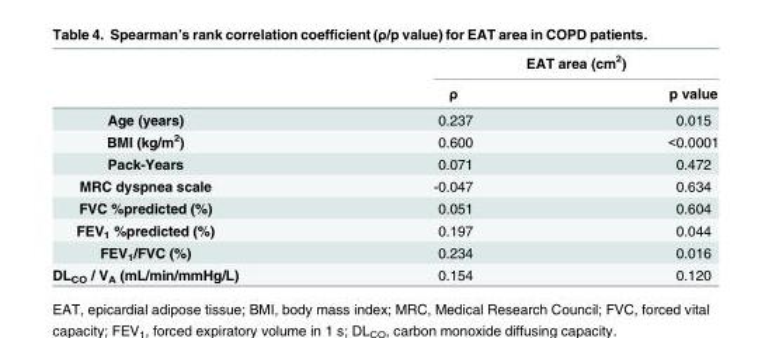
<table><thead><tr><td rowspan="2"></td><td colspan="2">EAT area (cm<sup>2</sup>)</td></tr><tr><td>ρ</td><td>p value</td></tr></thead><tbody><tr><td>Age (years)</td><td>0.237</td><td>0.015</td></tr><tr><td>BMI (kg/m<sup>2</sup>)</td><td>0.600</td><td>&lt;0.0001</td></tr><tr><td>Pack-Years</td><td>0.071</td><td>0.472</td></tr><tr><td>MRC dyspnea scale</td><td>-0.047</td><td>0.634</td></tr><tr><td>FVC %predicted (%)</td><td>0.051</td><td>0.604</td></tr><tr><td>FEV<sub>1</sub> %predicted (%)</td><td>0.197</td><td>0.044</td></tr><tr><td>FEV<sub>1</sub>/FVC (%)</td><td>0.234</td><td>0.016</td></tr><tr><td>DL<sub>CO</sub> / V<sub>A</sub> (mL/min/mmHg/L)</td><td>0.154</td><td>0.120</td></tr></tbody></table>